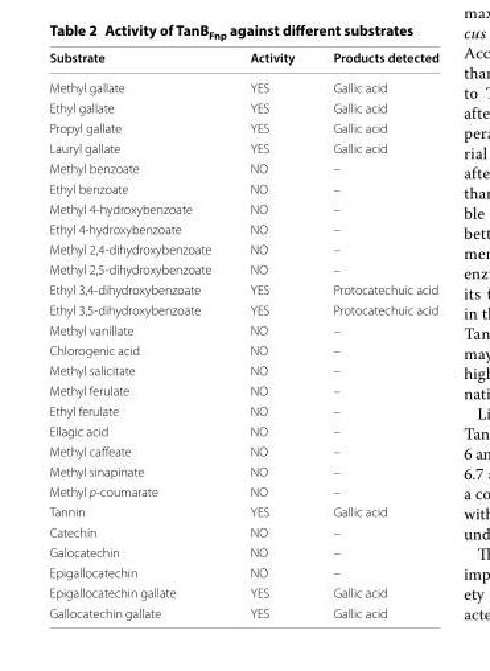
<table><thead><tr><td>Substrate</td><td>Activity</td><td>Products detected</td></tr></thead><tbody><tr><td>Methyl gallate</td><td>YES</td><td>Gallic acid</td></tr><tr><td>Ethyl gallate</td><td>YES</td><td>Gallic acid</td></tr><tr><td>Propyl gallate</td><td>YES</td><td>Gallic acid</td></tr><tr><td>Lauryl gallate</td><td>YES</td><td>Gallic acid</td></tr><tr><td>Methyl benzoate</td><td>NO</td><td>–</td></tr><tr><td>Ethyl benzoate</td><td>NO</td><td>–</td></tr><tr><td>Methyl 4‑hydroxybenzoate</td><td>NO</td><td>–</td></tr><tr><td>Ethyl 4‑hydroxybenzoate</td><td>NO</td><td>–</td></tr><tr><td>Methyl 2,4‑dihydroxybenzoate</td><td>NO</td><td>–</td></tr><tr><td>Methyl 2,5‑dihydroxybenzoate</td><td>NO</td><td>–</td></tr><tr><td>Ethyl 3,4‑dihydroxybenzoate</td><td>YES</td><td>Protocatechuic acid</td></tr><tr><td>Ethyl 3,5‑dihydroxybenzoate</td><td>YES</td><td>Protocatechuic acid</td></tr><tr><td>Methyl vanillate</td><td>NO</td><td>–</td></tr><tr><td>Chlorogenic acid</td><td>NO</td><td>–</td></tr><tr><td>Methyl salicitate</td><td>NO</td><td>–</td></tr><tr><td>Methyl ferulate</td><td>NO</td><td>–</td></tr><tr><td>Ethyl ferulate</td><td>NO</td><td>–</td></tr><tr><td>Ellagic acid</td><td>NO</td><td>–</td></tr><tr><td>Methyl caffeate</td><td>NO</td><td>–</td></tr><tr><td>Methyl sinapinate</td><td>NO</td><td>–</td></tr><tr><td>Methyl p‑coumarate</td><td>NO</td><td>–</td></tr><tr><td>Tannin</td><td>YES</td><td>Gallic acid</td></tr><tr><td>Catechin</td><td>NO</td><td>–</td></tr><tr><td>Galocatechin</td><td>NO</td><td>–</td></tr><tr><td>Epigallocatechin</td><td>NO</td><td>–</td></tr><tr><td>Epigallocatechin gallate</td><td>YES</td><td>Gallic acid</td></tr><tr><td>Gallocatechin gallate</td><td>YES</td><td>Gallic acid</td></tr></tbody></table>